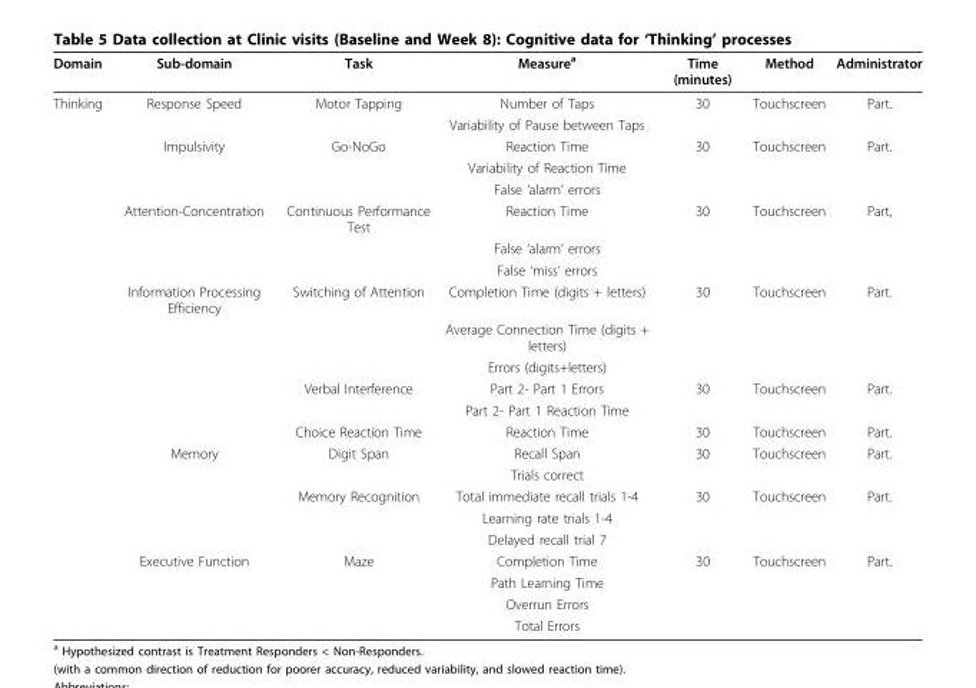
<table><thead><tr><td>Domain</td><td>Sub-domain</td><td>Task</td><td>Measure<sup>a</sup></td><td>Time (minutes)</td><td>Method</td><td>Administrator</td></tr></thead><tbody><tr><td rowspan="23">Thinking</td><td>Response Speed</td><td>Motor Tapping</td><td>Number of Taps</td><td>30</td><td>Touchscreen</td><td>Part.</td></tr><tr><td></td><td></td><td>Variability of Pause between Taps</td><td></td><td></td><td></td></tr><tr><td>Impulsivity</td><td>Go-NoGo</td><td>Reaction Time</td><td>30</td><td>Touchscreen</td><td>Part.</td></tr><tr><td></td><td></td><td>Variability of Reaction Time</td><td></td><td></td><td></td></tr><tr><td></td><td></td><td>False ‘alarm’ errors</td><td></td><td></td><td></td></tr><tr><td>Attention-Concentration</td><td>Continuous Performance Test</td><td>Reaction Time</td><td>30</td><td>Touchscreen</td><td>Part,</td></tr><tr><td></td><td></td><td>False ‘alarm’ errors</td><td></td><td></td><td></td></tr><tr><td></td><td></td><td>False ‘miss’ errors</td><td></td><td></td><td></td></tr><tr><td>Information Processing Efficiency</td><td>Switching of Attention</td><td>Completion Time (digits + letters)</td><td>30</td><td>Touchscreen</td><td>Part.</td></tr><tr><td></td><td></td><td>Average Connection Time (digits + letters)</td><td></td><td></td><td></td></tr><tr><td></td><td></td><td>Errors (digits+letters)</td><td></td><td></td><td></td></tr><tr><td></td><td>Verbal Interference</td><td>Part 2- Part 1 Errors</td><td>30</td><td>Touchscreen</td><td>Part.</td></tr><tr><td></td><td></td><td>Part 2- Part 1 Reaction Time</td><td></td><td></td><td></td></tr><tr><td></td><td>Choice Reaction Time</td><td>Reaction Time</td><td>30</td><td>Touchscreen</td><td>Part.</td></tr><tr><td>Memory</td><td>Digit Span</td><td>Recall Span</td><td>30</td><td>Touchscreen</td><td>Part.</td></tr><tr><td></td><td></td><td>Trials correct</td><td></td><td></td><td></td></tr><tr><td></td><td>Memory Recognition</td><td>Total immediate recall trials 1-4</td><td>30</td><td>Touchscreen</td><td>Part.</td></tr><tr><td></td><td></td><td>Learning rate trials 1-4</td><td></td><td></td><td></td></tr><tr><td></td><td></td><td>Delayed recall trial 7</td><td></td><td></td><td></td></tr><tr><td>Executive Function</td><td>Maze</td><td>Completion Time</td><td>30</td><td>Touchscreen</td><td>Part.</td></tr><tr><td></td><td></td><td>Path Learning Time</td><td></td><td></td><td></td></tr><tr><td></td><td></td><td>Overrun Errors</td><td></td><td></td><td></td></tr><tr><td></td><td></td><td>Total Errors</td><td></td><td></td><td></td></tr></tbody></table>